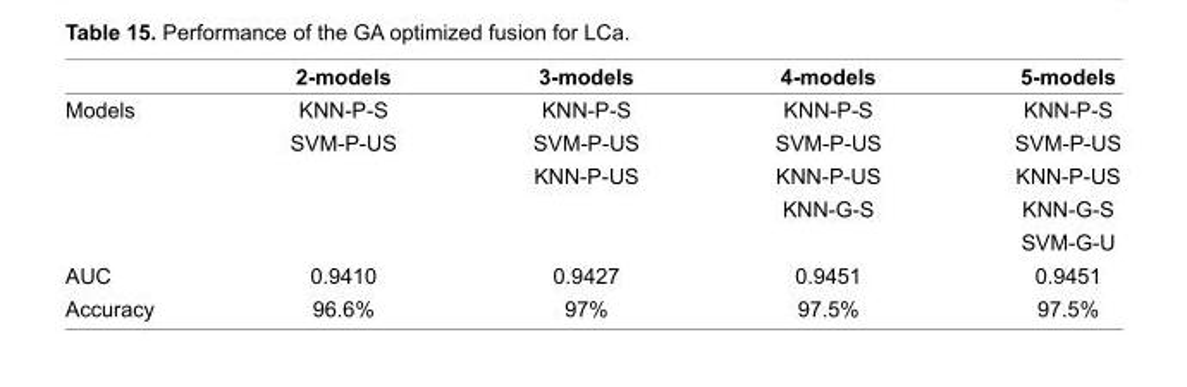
<table><thead><tr><td></td><td>2-models</td><td>3-models</td><td>4-models</td><td>5-models</td></tr></thead><tbody><tr><td rowspan="5">Models</td><td>KNN-P-S</td><td>KNN-P-S</td><td>KNN-P-S</td><td>KNN-P-S</td></tr><tr><td>SVM-P-US</td><td>SVM-P-US</td><td>SVM-P-US</td><td>SVM-P-US</td></tr><tr><td></td><td>KNN-P-US</td><td>KNN-P-US</td><td>KNN-P-US</td></tr><tr><td></td><td></td><td>KNN-G-S</td><td>KNN-G-S</td></tr><tr><td></td><td></td><td></td><td>SVM-G-U</td></tr><tr><td>AUC</td><td>0.9410</td><td>0.9427</td><td>0.9451</td><td>0.9451</td></tr><tr><td>Accuracy</td><td>96.6%</td><td>97%</td><td>97.5%</td><td>97.5%</td></tr></tbody></table>